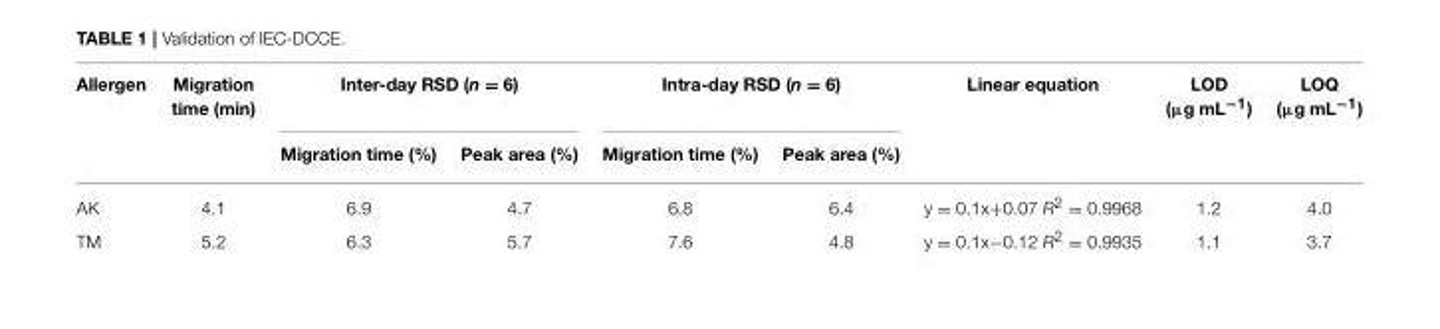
<table><thead><tr><td rowspan="2">Allergen</td><td rowspan="2">Migration time (min)</td><td colspan="2">Inter-day RSD (n = 6)</td><td colspan="2">Intra-day RSD (n = 6)</td><td rowspan="2">Linear equation</td><td rowspan="2">LOD (µg mL<sup>−1</sup>)</td><td rowspan="2">LOQ (µg mL<sup>−1</sup>)</td></tr><tr><td>Migration time (%)</td><td>Peak area (%)</td><td>Migration time (%)</td><td>Peak area (%)</td></tr></thead><tbody><tr><td>AK</td><td>4.1</td><td>6.9</td><td>4.7</td><td>6.8</td><td>6.4</td><td>y = 0.1x+0.07 R<sup>2</sup> = 0.9968</td><td>1.2</td><td>4.0</td></tr><tr><td>TM</td><td>5.2</td><td>6.3</td><td>5.7</td><td>7.6</td><td>4.8</td><td>y = 0.1x−0.12 R<sup>2</sup> = 0.9935</td><td>1.1</td><td>3.7</td></tr></tbody></table>